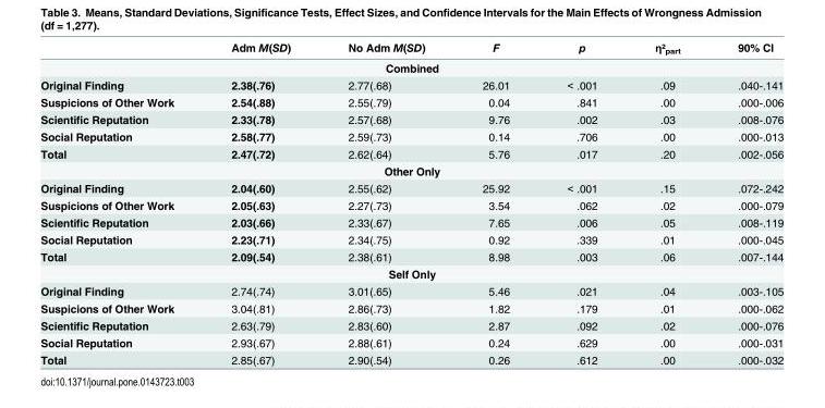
<table><thead><tr><td></td><td>Adm M(SD)</td><td>No Adm M(SD)</td><td>F</td><td>p</td><td>η²<sub>part</sub></td><td>90% CI</td></tr></thead><tbody><tr><td colspan="7">Combined</td></tr><tr><td>Original Finding</td><td>2.38(.76)</td><td>2.77(.68)</td><td>26.01</td><td>&lt; .001</td><td>.09</td><td>.040-.141</td></tr><tr><td>Suspicions of Other Work</td><td>2.54(.88)</td><td>2.55(.79)</td><td>0.04</td><td>.841</td><td>.00</td><td>.000-.006</td></tr><tr><td>Scientific Reputation</td><td>2.33(.78)</td><td>2.57(.68)</td><td>9.76</td><td>.002</td><td>.03</td><td>.008-.076</td></tr><tr><td>Social Reputation</td><td>2.58(.77)</td><td>2.59(.73)</td><td>0.14</td><td>.706</td><td>.00</td><td>.000-.013</td></tr><tr><td>Total</td><td>2.47(.72)</td><td>2.62(.64)</td><td>5.76</td><td>.017</td><td>.20</td><td>.002-.056</td></tr><tr><td colspan="7">Other Only</td></tr><tr><td>Original Finding</td><td>2.04(.60)</td><td>2.55(.62)</td><td>25.92</td><td>&lt; .001</td><td>.15</td><td>.072-.242</td></tr><tr><td>Suspicions of Other Work</td><td>2.05(.63)</td><td>2.27(.73)</td><td>3.54</td><td>.062</td><td>.02</td><td>.000-.079</td></tr><tr><td>Scientific Reputation</td><td>2.03(.66)</td><td>2.33(.67)</td><td>7.65</td><td>.006</td><td>.05</td><td>.008-.119</td></tr><tr><td>Social Reputation</td><td>2.23(.71)</td><td>2.34(.75)</td><td>0.92</td><td>.339</td><td>.01</td><td>.000-.045</td></tr><tr><td>Total</td><td>2.09(.54)</td><td>2.38(.61)</td><td>8.98</td><td>.003</td><td>.06</td><td>.007-.144</td></tr><tr><td colspan="7">Self Only</td></tr><tr><td>Original Finding</td><td>2.74(.74)</td><td>3.01(.65)</td><td>5.46</td><td>.021</td><td>.04</td><td>.003-.105</td></tr><tr><td>Suspicions of Other Work</td><td>3.04(.81)</td><td>2.86(.73)</td><td>1.82</td><td>.179</td><td>.01</td><td>.000-.062</td></tr><tr><td>Scientific Reputation</td><td>2.63(.79)</td><td>2.83(.60)</td><td>2.87</td><td>.092</td><td>.02</td><td>.000-.076</td></tr><tr><td>Social Reputation</td><td>2.93(.67)</td><td>2.88(.61)</td><td>0.24</td><td>.629</td><td>.00</td><td>.000-.031</td></tr><tr><td>Total</td><td>2.85(.67)</td><td>2.90(.54)</td><td>0.26</td><td>.612</td><td>.00</td><td>.000-.032</td></tr></tbody></table>